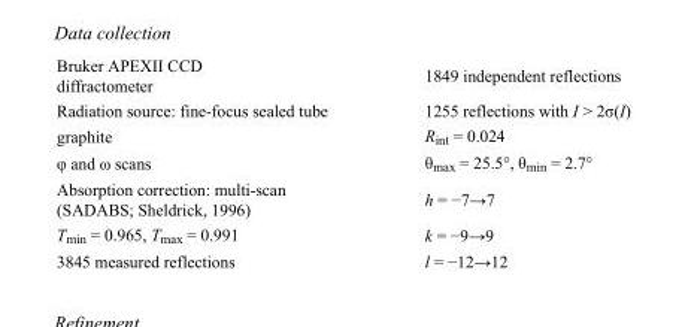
<table><tbody><tr><td>Bruker APEXII CCD diffractometer</td><td>1849 independent reflections</td></tr><tr><td>Radiation source: fine-focus sealed tube</td><td>1255 reflections with I &gt; 2σ(I)</td></tr><tr><td>graphite</td><td>R<sub>int</sub> = 0.024</td></tr><tr><td>φ and ω scans</td><td>θ<sub>max</sub> = 25.5°, θ<sub>min</sub> = 2.7°</td></tr><tr><td>Absorption correction: multi-scan (SADABS; Sheldrick, 1996)</td><td>h = −7→7</td></tr><tr><td>T<sub>min</sub> = 0.965, T<sub>max</sub> = 0.991</td><td>k = −9→9</td></tr><tr><td>3845 measured reflections</td><td>l = −12→12</td></tr></tbody></table>